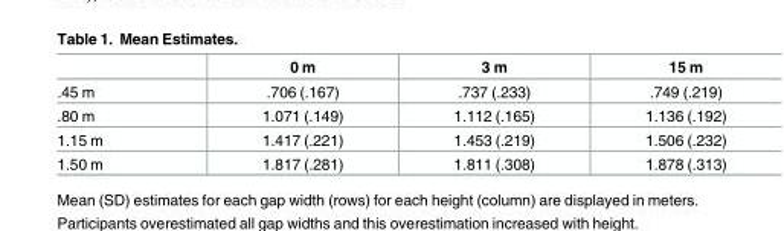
<table><thead><tr><td></td><td>0 m</td><td>3 m</td><td>15 m</td></tr></thead><tbody><tr><td>.45 m</td><td>.706 (.167)</td><td>.737 (.233)</td><td>.749 (.219)</td></tr><tr><td>.80 m</td><td>1.071 (.149)</td><td>1.112 (.165)</td><td>1.136 (.192)</td></tr><tr><td>1.15 m</td><td>1.417 (.221)</td><td>1.453 (.219)</td><td>1.506 (.232)</td></tr><tr><td>1.50 m</td><td>1.817 (.281)</td><td>1.811 (.308)</td><td>1.878 (.313)</td></tr></tbody></table>